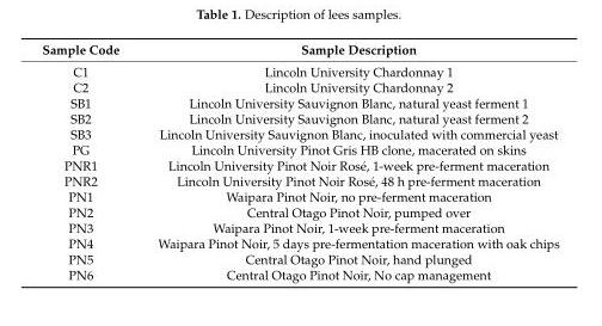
<table><thead><tr><td>Sample Code</td><td>Sample Description</td></tr></thead><tbody><tr><td>C1</td><td>Lincoln University Chardonnay 1</td></tr><tr><td>C2</td><td>Lincoln University Chardonnay 2</td></tr><tr><td>SB1</td><td>Lincoln University Sauvignon Blanc, natural yeast ferment 1</td></tr><tr><td>SB2</td><td>Lincoln University Sauvignon Blanc, natural yeast ferment 2</td></tr><tr><td>SB3</td><td>Lincoln University Sauvignon Blanc, inoculated with commercial yeast</td></tr><tr><td>PG</td><td>Lincoln University Pinot Gris HB clone, macerated on skins</td></tr><tr><td>PNR1</td><td>Lincoln University Pinot Noir Rosé, 1-week pre-ferment maceration</td></tr><tr><td>PNR2</td><td>Lincoln University Pinot Noir Rosé, 48 h pre-ferment maceration</td></tr><tr><td>PN1</td><td>Waipara Pinot Noir, no pre-ferment maceration</td></tr><tr><td>PN2</td><td>Central Otago Pinot Noir, pumped over</td></tr><tr><td>PN3</td><td>Waipara Pinot Noir, 1-week pre-ferment maceration</td></tr><tr><td>PN4</td><td>Waipara Pinot Noir, 5 days pre-fermentation maceration with oak chips</td></tr><tr><td>PN5</td><td>Central Otago Pinot Noir, hand plunged</td></tr><tr><td>PN6</td><td>Central Otago Pinot Noir, No cap management</td></tr></tbody></table>